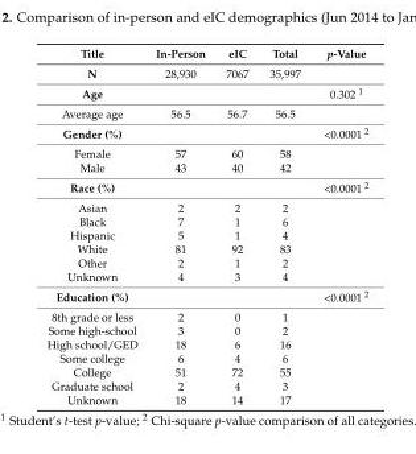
<table><thead><tr><td>Title</td><td>In-Person</td><td>eIC</td><td>Total</td><td>p-Value</td></tr></thead><tbody><tr><td>N</td><td>28,930</td><td>7067</td><td>35,997</td><td></td></tr><tr><td>Age</td><td></td><td></td><td></td><td>0.302 <sup>1</sup></td></tr><tr><td>Average age</td><td>56.5</td><td>56.7</td><td>56.5</td><td></td></tr><tr><td>Gender (%)</td><td></td><td></td><td></td><td>&lt;0.0001 <sup>2</sup></td></tr><tr><td>Female</td><td>57</td><td>60</td><td>58</td><td></td></tr><tr><td>Male</td><td>43</td><td>40</td><td>42</td><td></td></tr><tr><td>Race (%)</td><td></td><td></td><td></td><td>&lt;0.0001 <sup>2</sup></td></tr><tr><td>Asian</td><td>2</td><td>2</td><td>2</td><td></td></tr><tr><td>Black</td><td>7</td><td>1</td><td>6</td><td></td></tr><tr><td>Hispanic</td><td>5</td><td>1</td><td>4</td><td></td></tr><tr><td>White</td><td>81</td><td>92</td><td>83</td><td></td></tr><tr><td>Other</td><td>2</td><td>1</td><td>2</td><td></td></tr><tr><td>Unknown</td><td>4</td><td>3</td><td>4</td><td></td></tr><tr><td>Education (%)</td><td></td><td></td><td></td><td>&lt;0.0001 <sup>2</sup></td></tr><tr><td>8th grade or less</td><td>2</td><td>0</td><td>1</td><td></td></tr><tr><td>Some high-school</td><td>3</td><td>0</td><td>2</td><td></td></tr><tr><td>High school/GED</td><td>18</td><td>6</td><td>16</td><td></td></tr><tr><td>Some college</td><td>6</td><td>4</td><td>6</td><td></td></tr><tr><td>College</td><td>51</td><td>72</td><td>55</td><td></td></tr><tr><td>Graduate school</td><td>2</td><td>4</td><td>3</td><td></td></tr><tr><td>Unknown</td><td>18</td><td>14</td><td>17</td><td></td></tr></tbody></table>